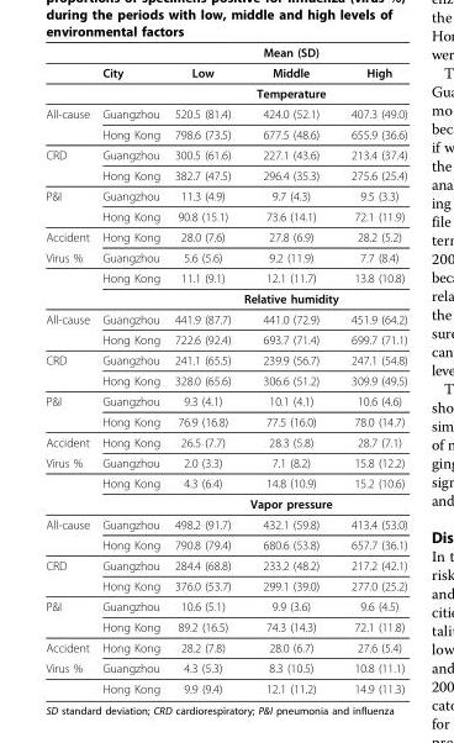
<table><thead><tr><td rowspan="2"></td><td rowspan="2">City</td><td colspan="3">Mean (SD)</td></tr><tr><td>Low</td><td>Middle</td><td>High</td></tr></thead><tbody><tr><td></td><td></td><td></td><td>Temperature</td><td></td></tr><tr><td rowspan="2">All-cause</td><td>Guangzhou</td><td>520.5 (81.4)</td><td>424.0 (52.1)</td><td>407.3 (49.0)</td></tr><tr><td>Hong Kong</td><td>798.6 (73.5)</td><td>677.5 (48.6)</td><td>655.9 (36.6)</td></tr><tr><td rowspan="2">CRD</td><td>Guangzhou</td><td>300.5 (61.6)</td><td>227.1 (43.6)</td><td>213.4 (37.4)</td></tr><tr><td>Hong Kong</td><td>382.7 (47.5)</td><td>296.4 (35.3)</td><td>275.6 (25.4)</td></tr><tr><td rowspan="2">P&amp;I</td><td>Guangzhou</td><td>11.3 (4.9)</td><td>9.7 (4.3)</td><td>9.5 (3.3)</td></tr><tr><td>Hong Kong</td><td>90.8 (15.1)</td><td>73.6 (14.1)</td><td>72.1 (11.9)</td></tr><tr><td>Accident</td><td>Hong Kong</td><td>28.0 (7.6)</td><td>27.8 (6.9)</td><td>28.2 (5.2)</td></tr><tr><td rowspan="3">Virus %</td><td>Guangzhou</td><td>5.6 (5.6)</td><td>9.2 (11.9)</td><td>7.7 (8.4)</td></tr><tr><td>Hong Kong</td><td>11.1 (9.1)</td><td>12.1 (11.7)</td><td>13.8 (10.8)</td></tr><tr><td></td><td></td><td>Relative humidity</td><td></td></tr><tr><td rowspan="2">All-cause</td><td>Guangzhou</td><td>441.9 (87.7)</td><td>441.0 (72.9)</td><td>451.9 (64.2)</td></tr><tr><td>Hong Kong</td><td>722.6 (92.4)</td><td>693.7 (71.4)</td><td>699.7 (71.1)</td></tr><tr><td rowspan="2">CRD</td><td>Guangzhou</td><td>241.1 (65.5)</td><td>239.9 (56.7)</td><td>247.1 (54.8)</td></tr><tr><td>Hong Kong</td><td>328.0 (65.6)</td><td>306.6 (51.2)</td><td>309.9 (49.5)</td></tr><tr><td rowspan="2">P&amp;I</td><td>Guangzhou</td><td>9.3 (4.1)</td><td>10.1 (4.1)</td><td>10.6 (4.6)</td></tr><tr><td>Hong Kong</td><td>76.9 (16.8)</td><td>77.5 (16.0)</td><td>78.0 (14.7)</td></tr><tr><td>Accident</td><td>Hong Kong</td><td>26.5 (7.7)</td><td>28.3 (5.8)</td><td>28.7 (7.1)</td></tr><tr><td rowspan="3">Virus %</td><td>Guangzhou</td><td>2.0 (3.3)</td><td>7.1 (8.2)</td><td>15.8 (12.2)</td></tr><tr><td>Hong Kong</td><td>4.3 (6.4)</td><td>14.8 (10.9)</td><td>15.2 (10.6)</td></tr><tr><td></td><td></td><td>Vapor pressure</td><td></td></tr><tr><td rowspan="2">All-cause</td><td>Guangzhou</td><td>498.2 (91.7)</td><td>432.1 (59.8)</td><td>413.4 (53.0)</td></tr><tr><td>Hong Kong</td><td>790.8 (79.4)</td><td>680.6 (53.8)</td><td>657.7 (36.1)</td></tr><tr><td rowspan="2">CRD</td><td>Guangzhou</td><td>284.4 (68.8)</td><td>233.2 (48.2)</td><td>217.2 (42.1)</td></tr><tr><td>Hong Kong</td><td>376.0 (53.7)</td><td>299.1 (39.0)</td><td>277.0 (25.2)</td></tr><tr><td rowspan="2">P&amp;I</td><td>Guangzhou</td><td>10.6 (5.1)</td><td>9.9 (3.6)</td><td>9.6 (4.5)</td></tr><tr><td>Hong Kong</td><td>89.2 (16.5)</td><td>74.3 (14.3)</td><td>72.1 (11.8)</td></tr><tr><td>Accident</td><td>Hong Kong</td><td>28.2 (7.8)</td><td>28.0 (6.7)</td><td>27.6 (5.4)</td></tr><tr><td rowspan="2">Virus %</td><td>Guangzhou</td><td>4.3 (5.3)</td><td>8.3 (10.5)</td><td>10.8 (11.1)</td></tr><tr><td>Hong Kong</td><td>9.9 (9.4)</td><td>12.1 (11.2)</td><td>14.9 (11.3)</td></tr></tbody></table>